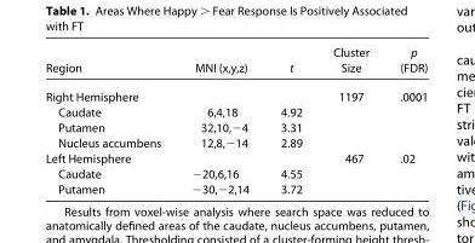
<table><thead><tr><td>Region</td><td>MNI (x,y,z)</td><td>t</td><td>Cluster Size</td><td>p (FDR)</td></tr></thead><tbody><tr><td>Right Hemisphere</td><td></td><td></td><td>1197</td><td>.0001</td></tr><tr><td>Caudate</td><td>6,4,18</td><td>4.92</td><td></td><td></td></tr><tr><td>Putamen</td><td>32,10,−4</td><td>3.31</td><td></td><td></td></tr><tr><td>Nucleus accumbens</td><td>12,8,−14</td><td>2.89</td><td></td><td></td></tr><tr><td>Left Hemisphere</td><td></td><td></td><td>467</td><td>.02</td></tr><tr><td>Caudate</td><td>−20,6,16</td><td>4.55</td><td></td><td></td></tr><tr><td>Putamen</td><td>−30,−2,14</td><td>3.72</td><td></td><td></td></tr></tbody></table>